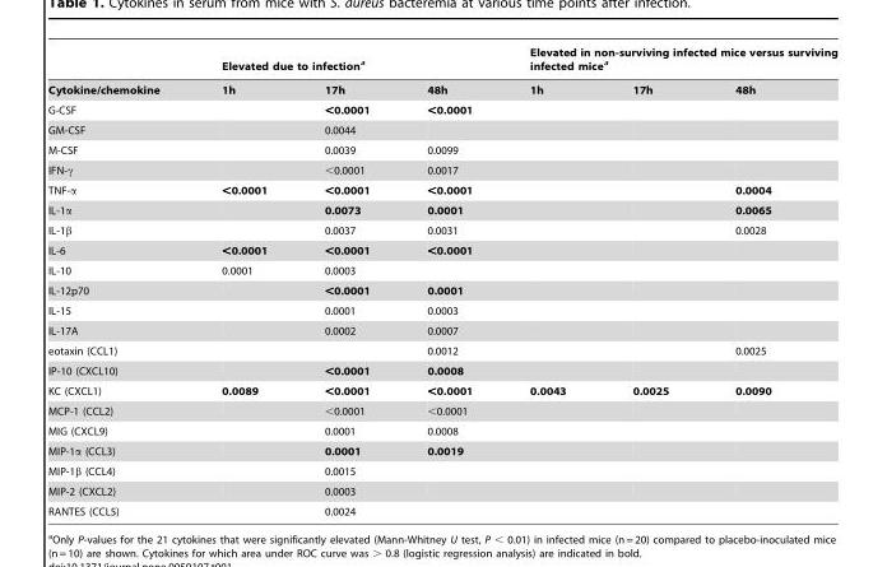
<table><thead><tr><td rowspan="2">Cytokine/chemokine</td><td colspan="3">Elevated due to infection<sup>a</sup></td><td colspan="3">Elevated in non-surviving infected mice versus surviving infected mice<sup>a</sup></td></tr><tr><td>1h</td><td>17h</td><td>48h</td><td>1h</td><td>17h</td><td>48h</td></tr></thead><tbody><tr><td>G-CSF</td><td></td><td>&lt;0.0001</td><td>&lt;0.0001</td><td></td><td></td><td></td></tr><tr><td>GM-CSF</td><td></td><td>0.0044</td><td></td><td></td><td></td><td></td></tr><tr><td>M-CSF</td><td></td><td>0.0039</td><td>0.0099</td><td></td><td></td><td></td></tr><tr><td>IFN-γ</td><td></td><td>&lt;0.0001</td><td>0.0017</td><td></td><td></td><td></td></tr><tr><td>TNF-α</td><td>&lt;0.0001</td><td>&lt;0.0001</td><td>&lt;0.0001</td><td></td><td></td><td>0.0004</td></tr><tr><td>IL-1α</td><td></td><td>0.0073</td><td>0.0001</td><td></td><td></td><td>0.0065</td></tr><tr><td>IL-1β</td><td></td><td>0.0037</td><td>0.0031</td><td></td><td></td><td>0.0028</td></tr><tr><td>IL-6</td><td>&lt;0.0001</td><td>&lt;0.0001</td><td>&lt;0.0001</td><td></td><td></td><td></td></tr><tr><td>IL-10</td><td>0.0001</td><td>0.0003</td><td></td><td></td><td></td><td></td></tr><tr><td>IL-12p70</td><td></td><td>&lt;0.0001</td><td>0.0001</td><td></td><td></td><td></td></tr><tr><td>IL-15</td><td></td><td>0.0001</td><td>0.0003</td><td></td><td></td><td></td></tr><tr><td>IL-17A</td><td></td><td>0.0002</td><td>0.0007</td><td></td><td></td><td></td></tr><tr><td>eotaxin (CCL1)</td><td></td><td></td><td>0.0012</td><td></td><td></td><td>0.0025</td></tr><tr><td>IP-10 (CXCL10)</td><td></td><td>&lt;0.0001</td><td>0.0008</td><td></td><td></td><td></td></tr><tr><td>KC (CXCL1)</td><td>0.0089</td><td>&lt;0.0001</td><td>&lt;0.0001</td><td>0.0043</td><td>0.0025</td><td>0.0090</td></tr><tr><td>MCP-1 (CCL2)</td><td></td><td>&lt;0.0001</td><td>&lt;0.0001</td><td></td><td></td><td></td></tr><tr><td>MIG (CXCL9)</td><td></td><td>0.0001</td><td>0.0008</td><td></td><td></td><td></td></tr><tr><td>MIP-1α (CCL3)</td><td></td><td>0.0001</td><td>0.0019</td><td></td><td></td><td></td></tr><tr><td>MIP-1β (CCL4)</td><td></td><td>0.0015</td><td></td><td></td><td></td><td></td></tr><tr><td>MIP-2 (CXCL2)</td><td></td><td>0.0003</td><td></td><td></td><td></td><td></td></tr><tr><td>RANTES (CCL5)</td><td></td><td>0.0024</td><td></td><td></td><td></td><td></td></tr></tbody></table>